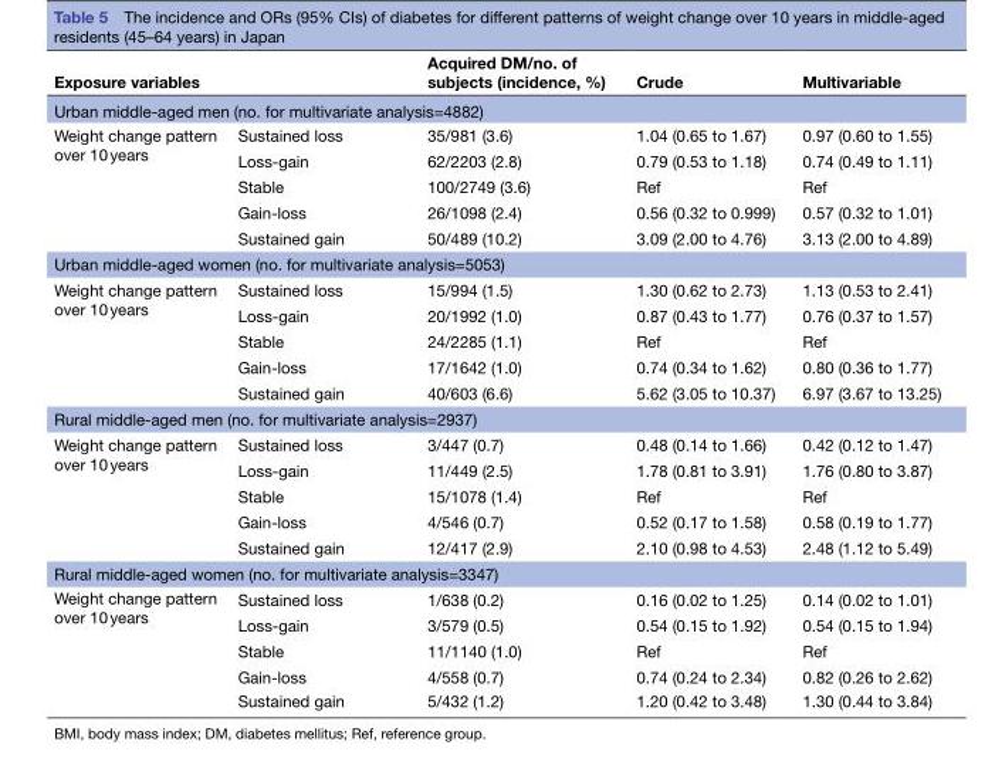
<table><thead><tr><td>Exposure variables</td><td></td><td>Acquired DM/no. of subjects (incidence, %)</td><td>Crude</td><td>Multivariable</td></tr></thead><tbody><tr><td colspan="5">Urban middle-aged men (no. for multivariate analysis=4882)</td></tr><tr><td rowspan="5">Weight change pattern over 10 years</td><td>Sustained loss</td><td>35/981 (3.6)</td><td>1.04 (0.65 to 1.67)</td><td>0.97 (0.60 to 1.55)</td></tr><tr><td>Loss-gain</td><td>62/2203 (2.8)</td><td>0.79 (0.53 to 1.18)</td><td>0.74 (0.49 to 1.11)</td></tr><tr><td>Stable</td><td>100/2749 (3.6)</td><td>Ref</td><td>Ref</td></tr><tr><td>Gain-loss</td><td>26/1098 (2.4)</td><td>0.56 (0.32 to 0.999)</td><td>0.57 (0.32 to 1.01)</td></tr><tr><td>Sustained gain</td><td>50/489 (10.2)</td><td>3.09 (2.00 to 4.76)</td><td>3.13 (2.00 to 4.89)</td></tr><tr><td colspan="5">Urban middle-aged women (no. for multivariate analysis=5053)</td></tr><tr><td rowspan="5">Weight change pattern over 10 years</td><td>Sustained loss</td><td>15/994 (1.5)</td><td>1.30 (0.62 to 2.73)</td><td>1.13 (0.53 to 2.41)</td></tr><tr><td>Loss-gain</td><td>20/1992 (1.0)</td><td>0.87 (0.43 to 1.77)</td><td>0.76 (0.37 to 1.57)</td></tr><tr><td>Stable</td><td>24/2285 (1.1)</td><td>Ref</td><td>Ref</td></tr><tr><td>Gain-loss</td><td>17/1642 (1.0)</td><td>0.74 (0.34 to 1.62)</td><td>0.80 (0.36 to 1.77)</td></tr><tr><td>Sustained gain</td><td>40/603 (6.6)</td><td>5.62 (3.05 to 10.37)</td><td>6.97 (3.67 to 13.25)</td></tr><tr><td colspan="5">Rural middle-aged men (no. for multivariate analysis=2937)</td></tr><tr><td rowspan="5">Weight change pattern over 10 years</td><td>Sustained loss</td><td>3/447 (0.7)</td><td>0.48 (0.14 to 1.66)</td><td>0.42 (0.12 to 1.47)</td></tr><tr><td>Loss-gain</td><td>11/449 (2.5)</td><td>1.78 (0.81 to 3.91)</td><td>1.76 (0.80 to 3.87)</td></tr><tr><td>Stable</td><td>15/1078 (1.4)</td><td>Ref</td><td>Ref</td></tr><tr><td>Gain-loss</td><td>4/546 (0.7)</td><td>0.52 (0.17 to 1.58)</td><td>0.58 (0.19 to 1.77)</td></tr><tr><td>Sustained gain</td><td>12/417 (2.9)</td><td>2.10 (0.98 to 4.53)</td><td>2.48 (1.12 to 5.49)</td></tr><tr><td colspan="5">Rural middle-aged women (no. for multivariate analysis=3347)</td></tr><tr><td rowspan="5">Weight change pattern over 10 years</td><td>Sustained loss</td><td>1/638 (0.2)</td><td>0.16 (0.02 to 1.25)</td><td>0.14 (0.02 to 1.01)</td></tr><tr><td>Loss-gain</td><td>3/579 (0.5)</td><td>0.54 (0.15 to 1.92)</td><td>0.54 (0.15 to 1.94)</td></tr><tr><td>Stable</td><td>11/1140 (1.0)</td><td>Ref</td><td>Ref</td></tr><tr><td>Gain-loss</td><td>4/558 (0.7)</td><td>0.74 (0.24 to 2.34)</td><td>0.82 (0.26 to 2.62)</td></tr><tr><td>Sustained gain</td><td>5/432 (1.2)</td><td>1.20 (0.42 to 3.48)</td><td>1.30 (0.44 to 3.84)</td></tr></tbody></table>